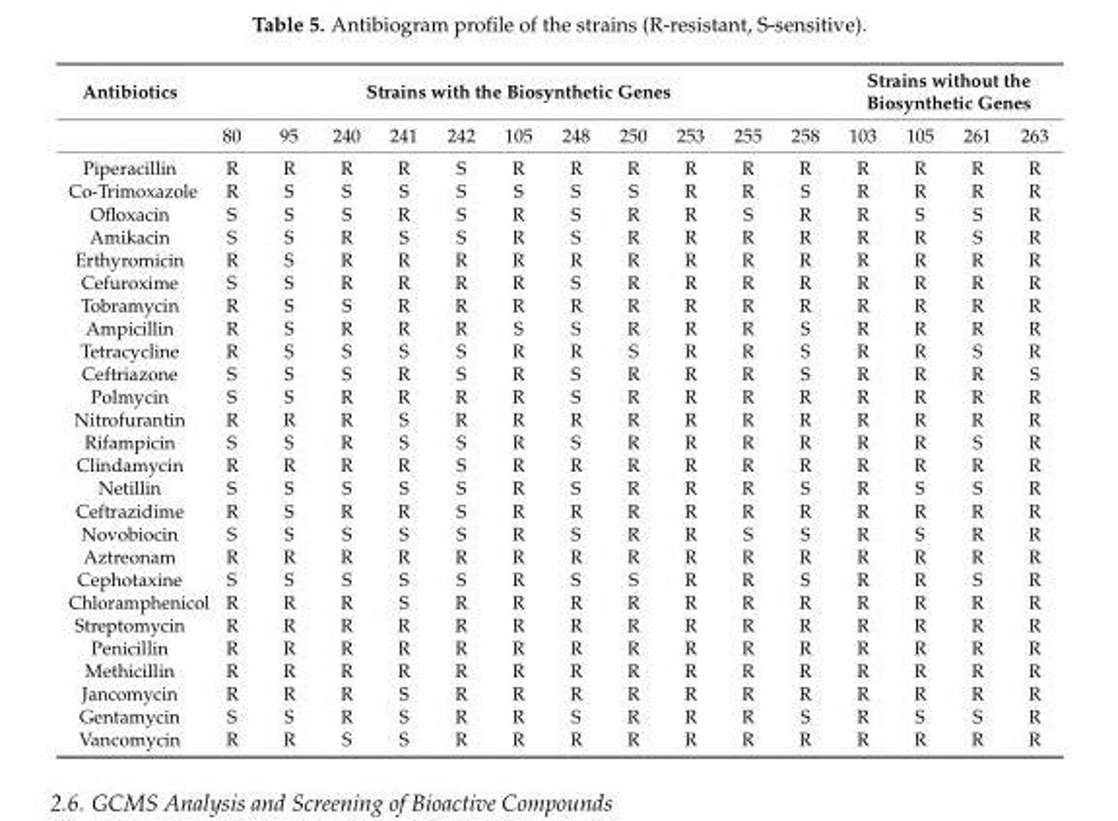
<table><thead><tr><td rowspan="2">Antibiotics</td><td colspan="11">Strains with the Biosynthetic Genes</td><td colspan="4">Strains without the Biosynthetic Genes</td></tr><tr><td>80</td><td>95</td><td>240</td><td>241</td><td>242</td><td>105</td><td>248</td><td>250</td><td>253</td><td>255</td><td>258</td><td>103</td><td>105</td><td>261</td><td>263</td></tr></thead><tbody><tr><td>Piperacillin</td><td>R</td><td>R</td><td>R</td><td>R</td><td>S</td><td>R</td><td>R</td><td>R</td><td>R</td><td>R</td><td>R</td><td>R</td><td>R</td><td>R</td><td>R</td></tr><tr><td>Co-Trimoxazole</td><td>R</td><td>S</td><td>S</td><td>S</td><td>S</td><td>S</td><td>S</td><td>S</td><td>R</td><td>R</td><td>S</td><td>R</td><td>R</td><td>R</td><td>R</td></tr><tr><td>Ofloxacin</td><td>S</td><td>S</td><td>S</td><td>R</td><td>S</td><td>R</td><td>S</td><td>R</td><td>R</td><td>S</td><td>R</td><td>R</td><td>S</td><td>S</td><td>R</td></tr><tr><td>Amikacin</td><td>S</td><td>S</td><td>R</td><td>S</td><td>S</td><td>R</td><td>S</td><td>R</td><td>R</td><td>R</td><td>R</td><td>R</td><td>R</td><td>S</td><td>R</td></tr><tr><td>Erthyromicin</td><td>R</td><td>S</td><td>R</td><td>R</td><td>R</td><td>R</td><td>R</td><td>R</td><td>R</td><td>R</td><td>R</td><td>R</td><td>R</td><td>R</td><td>R</td></tr><tr><td>Cefuroxime</td><td>S</td><td>S</td><td>R</td><td>R</td><td>R</td><td>R</td><td>S</td><td>R</td><td>R</td><td>R</td><td>R</td><td>R</td><td>R</td><td>R</td><td>R</td></tr><tr><td>Tobramycin</td><td>R</td><td>S</td><td>S</td><td>R</td><td>R</td><td>R</td><td>R</td><td>R</td><td>R</td><td>R</td><td>R</td><td>R</td><td>R</td><td>R</td><td>R</td></tr><tr><td>Ampicillin</td><td>R</td><td>S</td><td>R</td><td>R</td><td>R</td><td>S</td><td>S</td><td>R</td><td>R</td><td>R</td><td>S</td><td>R</td><td>R</td><td>R</td><td>R</td></tr><tr><td>Tetracycline</td><td>R</td><td>S</td><td>S</td><td>S</td><td>S</td><td>R</td><td>R</td><td>S</td><td>R</td><td>R</td><td>S</td><td>R</td><td>R</td><td>S</td><td>R</td></tr><tr><td>Ceftriazone</td><td>S</td><td>S</td><td>S</td><td>R</td><td>S</td><td>R</td><td>S</td><td>R</td><td>R</td><td>R</td><td>S</td><td>R</td><td>R</td><td>R</td><td>S</td></tr><tr><td>Polmycin</td><td>S</td><td>S</td><td>R</td><td>R</td><td>R</td><td>R</td><td>S</td><td>R</td><td>R</td><td>R</td><td>R</td><td>R</td><td>R</td><td>R</td><td>R</td></tr><tr><td>Nitrofurantin</td><td>R</td><td>R</td><td>R</td><td>S</td><td>R</td><td>R</td><td>R</td><td>R</td><td>R</td><td>R</td><td>R</td><td>R</td><td>R</td><td>R</td><td>R</td></tr><tr><td>Rifampicin</td><td>S</td><td>S</td><td>R</td><td>S</td><td>S</td><td>R</td><td>S</td><td>R</td><td>R</td><td>R</td><td>R</td><td>R</td><td>R</td><td>S</td><td>R</td></tr><tr><td>Clindamycin</td><td>R</td><td>R</td><td>R</td><td>R</td><td>S</td><td>R</td><td>R</td><td>R</td><td>R</td><td>R</td><td>R</td><td>R</td><td>R</td><td>R</td><td>R</td></tr><tr><td>Netillin</td><td>S</td><td>S</td><td>S</td><td>S</td><td>S</td><td>R</td><td>S</td><td>R</td><td>R</td><td>R</td><td>S</td><td>R</td><td>S</td><td>S</td><td>R</td></tr><tr><td>Ceftrazidime</td><td>R</td><td>S</td><td>R</td><td>R</td><td>S</td><td>R</td><td>R</td><td>R</td><td>R</td><td>R</td><td>R</td><td>R</td><td>R</td><td>R</td><td>R</td></tr><tr><td>Novobiocin</td><td>S</td><td>S</td><td>S</td><td>S</td><td>S</td><td>R</td><td>S</td><td>R</td><td>R</td><td>S</td><td>S</td><td>R</td><td>S</td><td>R</td><td>R</td></tr><tr><td>Aztreonam</td><td>R</td><td>R</td><td>R</td><td>R</td><td>R</td><td>R</td><td>R</td><td>R</td><td>R</td><td>R</td><td>R</td><td>R</td><td>R</td><td>R</td><td>R</td></tr><tr><td>Cephotaxine</td><td>S</td><td>S</td><td>S</td><td>S</td><td>S</td><td>R</td><td>S</td><td>S</td><td>R</td><td>R</td><td>S</td><td>R</td><td>R</td><td>S</td><td>R</td></tr><tr><td>Chloramphenicol</td><td>R</td><td>R</td><td>R</td><td>S</td><td>R</td><td>R</td><td>R</td><td>R</td><td>R</td><td>R</td><td>R</td><td>R</td><td>R</td><td>R</td><td>R</td></tr><tr><td>Streptomycin</td><td>R</td><td>R</td><td>R</td><td>R</td><td>R</td><td>R</td><td>R</td><td>R</td><td>R</td><td>R</td><td>R</td><td>R</td><td>R</td><td>R</td><td>R</td></tr><tr><td>Penicillin</td><td>R</td><td>R</td><td>R</td><td>R</td><td>R</td><td>R</td><td>R</td><td>R</td><td>R</td><td>R</td><td>R</td><td>R</td><td>R</td><td>R</td><td>R</td></tr><tr><td>Methicillin</td><td>R</td><td>R</td><td>R</td><td>R</td><td>R</td><td>R</td><td>R</td><td>R</td><td>R</td><td>R</td><td>R</td><td>R</td><td>R</td><td>R</td><td>R</td></tr><tr><td>Jancomycin</td><td>R</td><td>R</td><td>R</td><td>S</td><td>R</td><td>R</td><td>R</td><td>R</td><td>R</td><td>R</td><td>R</td><td>R</td><td>R</td><td>R</td><td>R</td></tr><tr><td>Gentamycin</td><td>S</td><td>S</td><td>R</td><td>S</td><td>R</td><td>R</td><td>S</td><td>R</td><td>R</td><td>R</td><td>S</td><td>R</td><td>S</td><td>S</td><td>R</td></tr><tr><td>Vancomycin</td><td>R</td><td>R</td><td>S</td><td>S</td><td>R</td><td>R</td><td>R</td><td>R</td><td>R</td><td>R</td><td>R</td><td>R</td><td>R</td><td>R</td><td>R</td></tr></tbody></table>